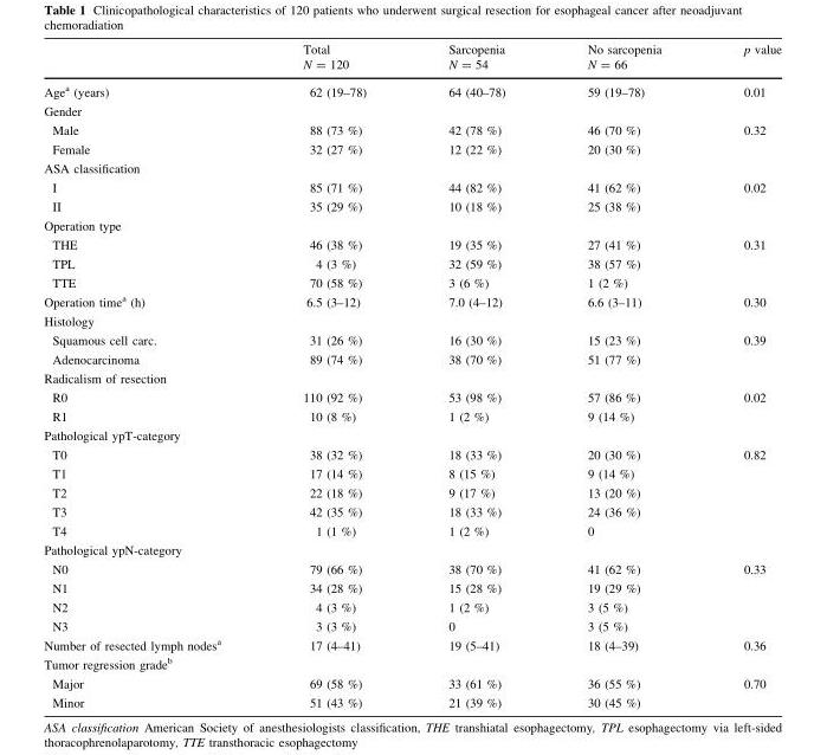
<table><thead><tr><td></td><td>Total N = 120</td><td>Sarcopenia N = 54</td><td>No sarcopenia N = 66</td><td>p value</td></tr></thead><tbody><tr><td>Age<sup>a</sup> (years)</td><td>62 (19–78)</td><td>64 (40–78)</td><td>59 (19–78)</td><td>0.01</td></tr><tr><td colspan="5">Gender</td></tr><tr><td>Male</td><td>88 (73 %)</td><td>42 (78 %)</td><td>46 (70 %)</td><td>0.32</td></tr><tr><td>Female</td><td>32 (27 %)</td><td>12 (22 %)</td><td>20 (30 %)</td><td></td></tr><tr><td colspan="5">ASA classification</td></tr><tr><td>I</td><td>85 (71 %)</td><td>44 (82 %)</td><td>41 (62 %)</td><td>0.02</td></tr><tr><td>II</td><td>35 (29 %)</td><td>10 (18 %)</td><td>25 (38 %)</td><td></td></tr><tr><td colspan="5">Operation type</td></tr><tr><td>THE</td><td>46 (38 %)</td><td rowspan="3">19 (35 %) 32 (59 %) 3 (6 %)</td><td rowspan="3">27 (41 %) 38 (57 %) 1 (2 %)</td><td rowspan="3">0.31</td></tr><tr><td>TPL</td><td>4 (3 %)</td></tr><tr><td>TTE</td><td>70 (58 %)</td></tr><tr><td>Operation time<sup>a</sup> (h)</td><td>6.5 (3–12)</td><td>7.0 (4–12)</td><td>6.6 (3–11)</td><td>0.30</td></tr><tr><td colspan="5">Histology</td></tr><tr><td>Squamous cell carc.</td><td>31 (26 %)</td><td>16 (30 %)</td><td rowspan="2">15 (23 %) 51 (77 %)</td><td rowspan="2">0.39</td></tr><tr><td>Adenocarcinoma</td><td>89 (74 %)</td><td>38 (70 %)</td></tr><tr><td colspan="5">Radicalism of resection</td></tr><tr><td>R0</td><td>110 (92 %)</td><td rowspan="2">53 (98 %) 1 (2 %)</td><td rowspan="2">57 (86 %) 9 (14 %)</td><td rowspan="2">0.02</td></tr><tr><td>R1</td><td>10 (8 %)</td></tr><tr><td colspan="5">Pathological ypT-category</td></tr><tr><td>T0</td><td>38 (32 %)</td><td rowspan="5">18 (33 %) 8 (15 %) 9 (17 %) 18 (33 %) 1 (2 %)</td><td rowspan="5">20 (30 %) 9 (14 %) 13 (20 %) 24 (36 %) 0</td><td rowspan="5">0.82</td></tr><tr><td>T1</td><td>17 (14 %)</td></tr><tr><td>T2</td><td>22 (18 %)</td></tr><tr><td>T3</td><td>42 (35 %)</td></tr><tr><td>T4</td><td>1 (1 %)</td></tr><tr><td colspan="5">Pathological ypN-category</td></tr><tr><td>N0</td><td>79 (66 %)</td><td rowspan="4">38 (70 %) 15 (28 %) 1 (2 %) 0</td><td rowspan="4">41 (62 %) 19 (29 %) 3 (5 %) 3 (5 %)</td><td rowspan="4">0.33</td></tr><tr><td>N1</td><td>34 (28 %)</td></tr><tr><td>N2</td><td>4 (3 %)</td></tr><tr><td>N3</td><td>3 (3 %)</td></tr><tr><td>Number of resected lymph nodes<sup>a</sup></td><td>17 (4–41)</td><td>19 (5–41)</td><td>18 (4–39)</td><td>0.36</td></tr><tr><td colspan="5">Tumor regression grade<sup>b</sup></td></tr><tr><td rowspan="2">Major Minor</td><td>69 (58 %)</td><td rowspan="2">33 (61 %) 21 (39 %)</td><td rowspan="2">36 (55 %) 30 (45 %)</td><td rowspan="2">0.70</td></tr><tr><td>51 (43 %)</td></tr></tbody></table>